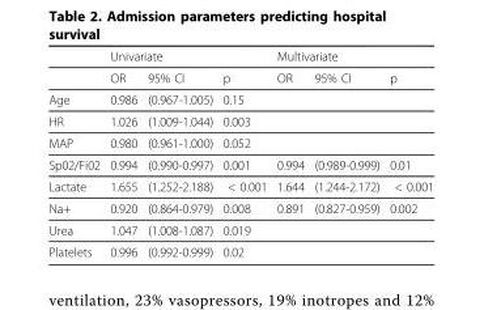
<table><thead><tr><td rowspan="2"></td><td colspan="3">Univariate</td><td colspan="3">Multivariate</td></tr><tr><td>OR</td><td>95% CI</td><td>p</td><td>OR</td><td>95% CI</td><td>p</td></tr></thead><tbody><tr><td>Age</td><td>0.986</td><td>(0.967-1.005)</td><td>0.15</td><td></td><td></td><td></td></tr><tr><td>HR</td><td>1.026</td><td>(1.009-1.044)</td><td>0.003</td><td></td><td></td><td></td></tr><tr><td>MAP</td><td>0.980</td><td>(0.961-1.000)</td><td>0.052</td><td></td><td></td><td></td></tr><tr><td>Sp02/Fi02</td><td>0.994</td><td>(0.990-0.997)</td><td>0.001</td><td>0.994</td><td>(0.989-0.999)</td><td>0.01</td></tr><tr><td>Lactate</td><td>1.655</td><td>(1.252-2.188)</td><td>&lt; 0.001</td><td>1.644</td><td>(1.244-2.172)</td><td>&lt; 0.001</td></tr><tr><td>Na+</td><td>0.920</td><td>(0.864-0.979)</td><td>0.008</td><td>0.891</td><td>(0.827-0.959)</td><td>0.002</td></tr><tr><td>Urea</td><td>1.047</td><td>(1.008-1.087)</td><td>0.019</td><td></td><td></td><td></td></tr><tr><td>Platelets</td><td>0.996</td><td>(0.992-0.999)</td><td>0.02</td><td></td><td></td><td></td></tr></tbody></table>